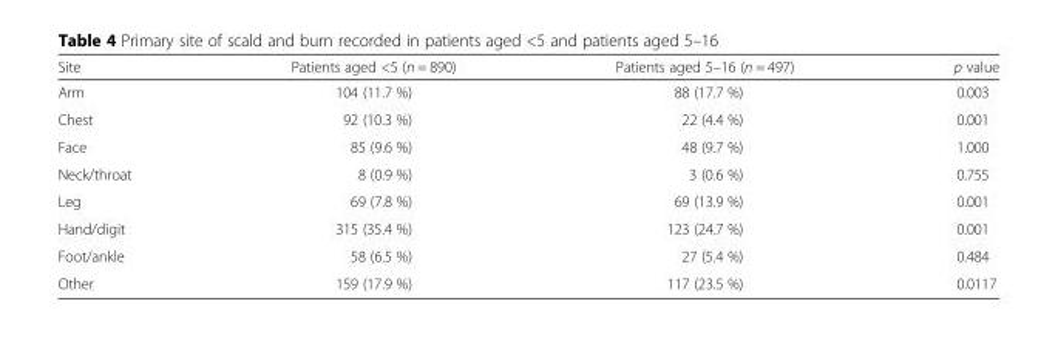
<table><thead><tr><td>Site</td><td>Patients aged &lt;5 (n = 890)</td><td>Patients aged 5–16 (n = 497)</td><td>p value</td></tr></thead><tbody><tr><td>Arm</td><td>104 (11.7 %)</td><td>88 (17.7 %)</td><td>0.003</td></tr><tr><td>Chest</td><td>92 (10.3 %)</td><td>22 (4.4 %)</td><td>0.001</td></tr><tr><td>Face</td><td>85 (9.6 %)</td><td>48 (9.7 %)</td><td>1.000</td></tr><tr><td>Neck/throat</td><td>8 (0.9 %)</td><td>3 (0.6 %)</td><td>0.755</td></tr><tr><td>Leg</td><td>69 (7.8 %)</td><td>69 (13.9 %)</td><td>0.001</td></tr><tr><td>Hand/digit</td><td>315 (35.4 %)</td><td>123 (24.7 %)</td><td>0.001</td></tr><tr><td>Foot/ankle</td><td>58 (6.5 %)</td><td>27 (5.4 %)</td><td>0.484</td></tr><tr><td>Other</td><td>159 (17.9 %)</td><td>117 (23.5 %)</td><td>0.0117</td></tr></tbody></table>